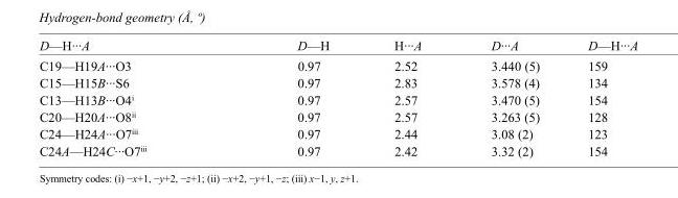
<table><tbody><tr><td>D—H···A</td><td>D—H</td><td>H···A</td><td>D···A</td><td>D—H···A</td></tr><tr><td>C19—H19A···O3</td><td>0.97</td><td>2.52</td><td>3.440 (5)</td><td>159</td></tr><tr><td>C15—H15B···S6</td><td>0.97</td><td>2.83</td><td>3.578 (4)</td><td>134</td></tr><tr><td>C13—H13B···O4<sup>i</sup></td><td>0.97</td><td>2.57</td><td>3.470 (5)</td><td>154</td></tr><tr><td>C20—H20A···O8<sup>ii</sup></td><td>0.97</td><td>2.57</td><td>3.263 (5)</td><td>128</td></tr><tr><td>C24—H24A···O7<sup>iii</sup></td><td>0.97</td><td>2.44</td><td>3.08 (2)</td><td>123</td></tr><tr><td>C24A—H24C···O7<sup>iii</sup></td><td>0.97</td><td>2.42</td><td>3.32 (2)</td><td>154</td></tr></tbody></table>